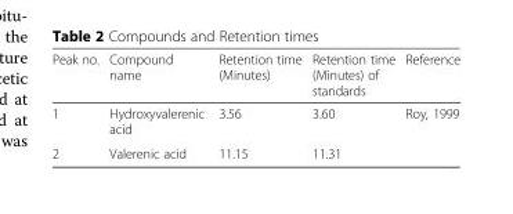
<table><thead><tr><td>Peak no.</td><td>Compound name</td><td>Retention time (Minutes)</td><td>Retention time (Minutes) of standards</td><td>Reference</td></tr></thead><tbody><tr><td>1</td><td>Hydroxyvalerenic acid</td><td>3.56</td><td>3.60</td><td rowspan="2">Roy, 1999</td></tr><tr><td>2</td><td>Valerenic acid</td><td>11.15</td><td>11.31</td></tr></tbody></table>